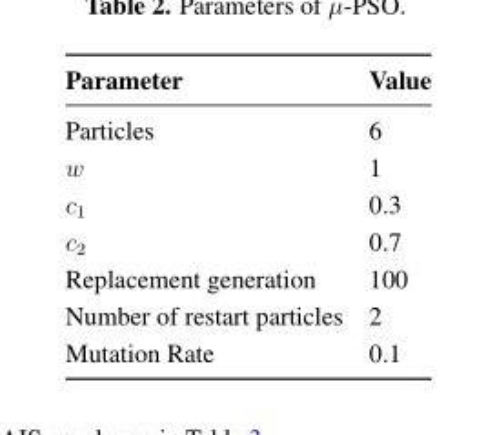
<table><thead><tr><td>Parameter</td><td>Value</td></tr></thead><tbody><tr><td>Particles</td><td>6</td></tr><tr><td>w</td><td>1</td></tr><tr><td>c<sub>1</sub></td><td>0.3</td></tr><tr><td>c<sub>2</sub></td><td>0.7</td></tr><tr><td>Replacement generation</td><td>100</td></tr><tr><td>Number of restart particles</td><td>2</td></tr><tr><td>Mutation Rate</td><td>0.1</td></tr></tbody></table>